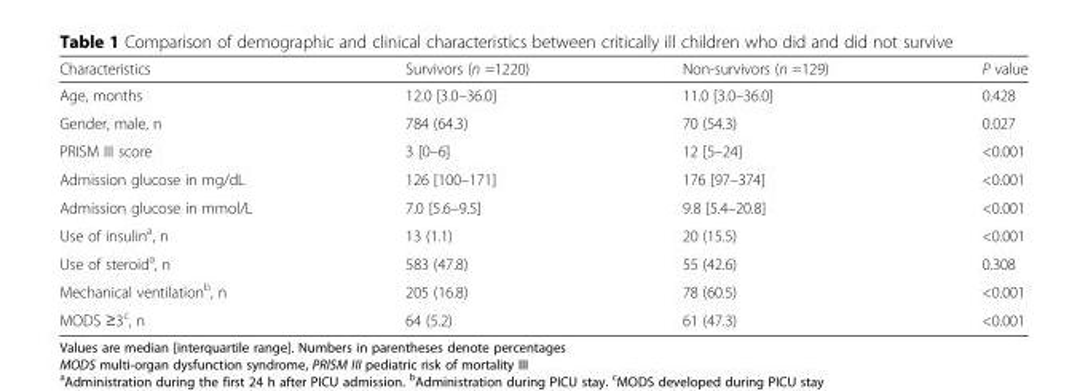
<table><thead><tr><td>Characteristics</td><td>Survivors (n =1220)</td><td>Non-survivors (n =129)</td><td>P value</td></tr></thead><tbody><tr><td>Age, months</td><td>12.0 [3.0–36.0]</td><td>11.0 [3.0–36.0]</td><td>0.428</td></tr><tr><td>Gender, male, n</td><td>784 (64.3)</td><td>70 (54.3)</td><td>0.027</td></tr><tr><td>PRISM III score</td><td>3 [0–6]</td><td>12 [5–24]</td><td>&lt;0.001</td></tr><tr><td>Admission glucose in mg/dL</td><td>126 [100–171]</td><td>176 [97–374]</td><td>&lt;0.001</td></tr><tr><td>Admission glucose in mmol/L</td><td>7.0 [5.6–9.5]</td><td>9.8 [5.4–20.8]</td><td>&lt;0.001</td></tr><tr><td>Use of insulin<sup>a</sup>, n</td><td>13 (1.1)</td><td>20 (15.5)</td><td>&lt;0.001</td></tr><tr><td>Use of steroid<sup>a</sup>, n</td><td>583 (47.8)</td><td>55 (42.6)</td><td>0.308</td></tr><tr><td>Mechanical ventilation<sup>b</sup>, n</td><td>205 (16.8)</td><td>78 (60.5)</td><td>&lt;0.001</td></tr><tr><td>MODS ≥3<sup>c</sup>, n</td><td>64 (5.2)</td><td>61 (47.3)</td><td>&lt;0.001</td></tr></tbody></table>